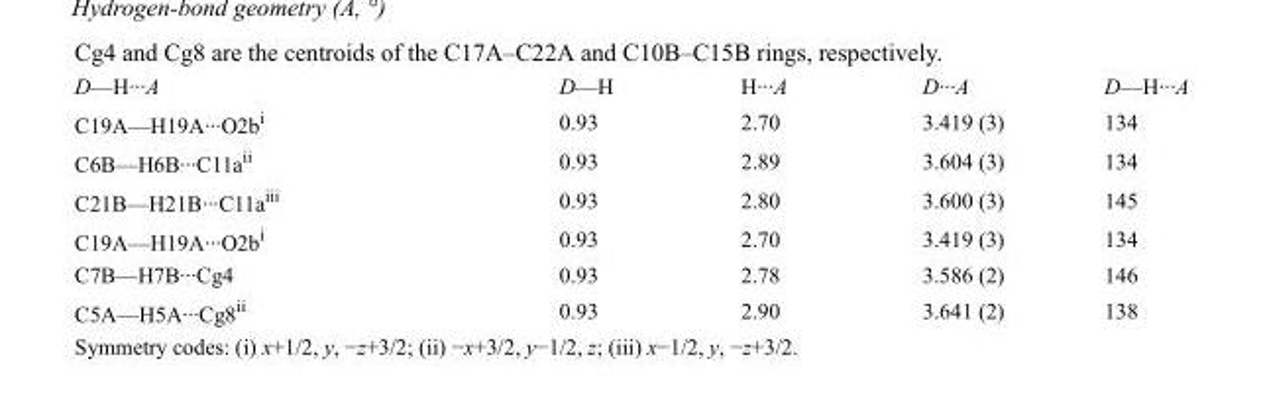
<table><tbody><tr><td>D—H···A</td><td>D—H</td><td>H···A</td><td>D···A</td><td>D—H···A</td></tr><tr><td>C19A—H19A···O2b<sup>i</sup></td><td>0.93</td><td>2.70</td><td>3.419 (3)</td><td>134</td></tr><tr><td>C6B—H6B···C11a<sup>ii</sup></td><td>0.93</td><td>2.89</td><td>3.604 (3)</td><td>134</td></tr><tr><td>C21B—H21B···C11a<sup>iii</sup></td><td>0.93</td><td>2.80</td><td>3.600 (3)</td><td>145</td></tr><tr><td>C19A—H19A···O2b<sup>i</sup></td><td>0.93</td><td>2.70</td><td>3.419 (3)</td><td>134</td></tr><tr><td>C7B—H7B···Cg4</td><td>0.93</td><td>2.78</td><td>3.586 (2)</td><td>146</td></tr><tr><td>C5A—H5A···Cg8<sup>ii</sup></td><td>0.93</td><td>2.90</td><td>3.641 (2)</td><td>138</td></tr></tbody></table>